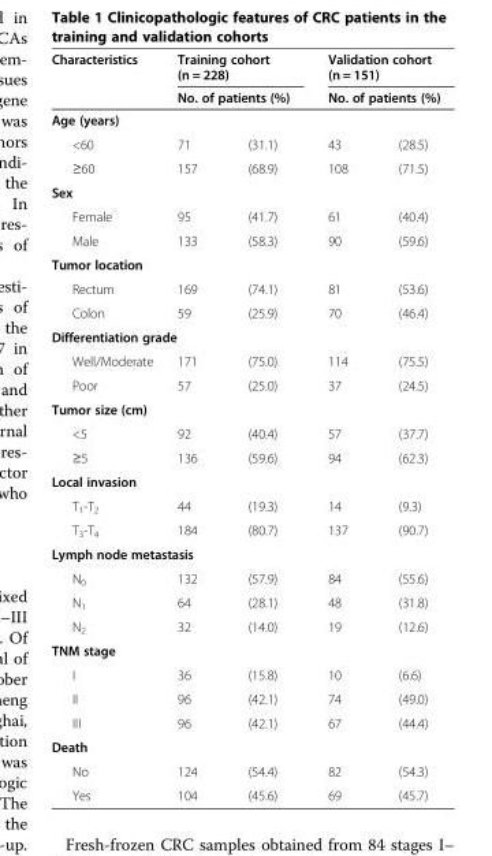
<table><thead><tr><td rowspan="2">Characteristics</td><td rowspan="2" colspan="2">Training cohort (n = 228) No. of patients (%)</td><td rowspan="2" colspan="2">Validation cohort (n = 151) No. of patients (%)</td></tr><tr></tr><tr><td colspan="5">Age (years)</td></tr><tr><td>&lt;60</td><td>71</td><td>(31.1)</td><td>43</td><td>(28.5)</td></tr></thead><tbody><tr><td>≥60</td><td>157</td><td>(68.9)</td><td>108</td><td>(71.5)</td></tr><tr><td colspan="5">Sex</td></tr><tr><td>Female</td><td>95</td><td>(41.7)</td><td>61</td><td>(40.4)</td></tr><tr><td>Male</td><td>133</td><td>(58.3)</td><td>90</td><td>(59.6)</td></tr><tr><td colspan="5">Tumor location</td></tr><tr><td>Rectum</td><td>169</td><td>(74.1)</td><td>81</td><td>(53.6)</td></tr><tr><td>Colon</td><td>59</td><td>(25.9)</td><td>70</td><td>(46.4)</td></tr><tr><td colspan="5">Differentiation grade</td></tr><tr><td>Well/Moderate</td><td>171</td><td>(75.0)</td><td>114</td><td>(75.5)</td></tr><tr><td>Poor</td><td>57</td><td>(25.0)</td><td>37</td><td>(24.5)</td></tr><tr><td colspan="5">Tumor size (cm)</td></tr><tr><td>&lt;5</td><td>92</td><td>(40.4)</td><td>57</td><td>(37.7)</td></tr><tr><td>≥5</td><td>136</td><td>(59.6)</td><td>94</td><td>(62.3)</td></tr><tr><td colspan="5">Local invasion</td></tr><tr><td>T<sub>1</sub>-T<sub>2</sub></td><td>44</td><td>(19.3)</td><td>14</td><td>(9.3)</td></tr><tr><td>T<sub>3</sub>-T<sub>4</sub></td><td>184</td><td>(80.7)</td><td>137</td><td>(90.7)</td></tr><tr><td colspan="5">Lymph node metastasis</td></tr><tr><td>N<sub>0</sub></td><td>132</td><td>(57.9)</td><td>84</td><td>(55.6)</td></tr><tr><td>N<sub>1</sub></td><td>64</td><td>(28.1)</td><td>48</td><td>(31.8)</td></tr><tr><td>N<sub>2</sub></td><td>32</td><td>(14.0)</td><td>19</td><td>(12.6)</td></tr><tr><td colspan="5">TNM stage</td></tr><tr><td>I</td><td>36</td><td>(15.8)</td><td>10</td><td>(6.6)</td></tr><tr><td>II</td><td>96</td><td>(42.1)</td><td>74</td><td>(49.0)</td></tr><tr><td>III</td><td>96</td><td>(42.1)</td><td>67</td><td>(44.4)</td></tr><tr><td colspan="5">Death</td></tr><tr><td>No</td><td>124</td><td>(54.4)</td><td>82</td><td>(54.3)</td></tr><tr><td>Yes</td><td>104</td><td>(45.6)</td><td>69</td><td>(45.7)</td></tr></tbody></table>